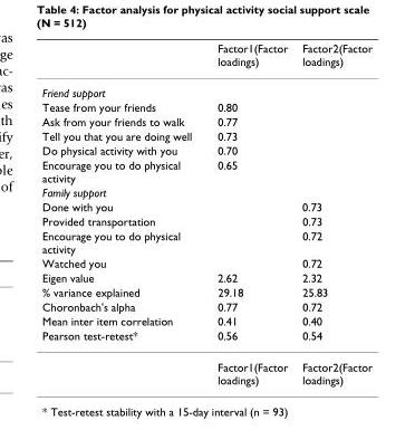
<table><thead><tr><td></td><td>Factor1(Factor loadings)</td><td>Factor2(Factor loadings)</td></tr></thead><tbody><tr><td colspan="3">Friend support</td></tr><tr><td>Tease from your friends</td><td>0.80</td><td></td></tr><tr><td>Ask from your friends to walk</td><td>0.77</td><td></td></tr><tr><td>Tell you that you are doing well</td><td>0.73</td><td></td></tr><tr><td>Do physical activity with you</td><td>0.70</td><td></td></tr><tr><td>Encourage you to do physical activity</td><td>0.65</td><td></td></tr><tr><td colspan="3">Family support</td></tr><tr><td>Done with you</td><td></td><td>0.73</td></tr><tr><td>Provided transportation</td><td></td><td>0.73</td></tr><tr><td>Encourage you to do physical activity</td><td></td><td>0.72</td></tr><tr><td>Watched you</td><td></td><td>0.72</td></tr><tr><td>Eigen value</td><td>2.62</td><td>2.32</td></tr><tr><td>% variance explained</td><td>29.18</td><td>25.83</td></tr><tr><td>Choronbach&#x27;s alpha</td><td>0.77</td><td>0.72</td></tr><tr><td>Mean inter item correlation</td><td>0.41</td><td>0.40</td></tr><tr><td rowspan="2">Pearson test-retest*</td><td>0.56</td><td>0.54</td></tr><tr><td>Factor1(Factor loadings)</td><td>Factor2(Factor loadings)</td></tr></tbody></table>